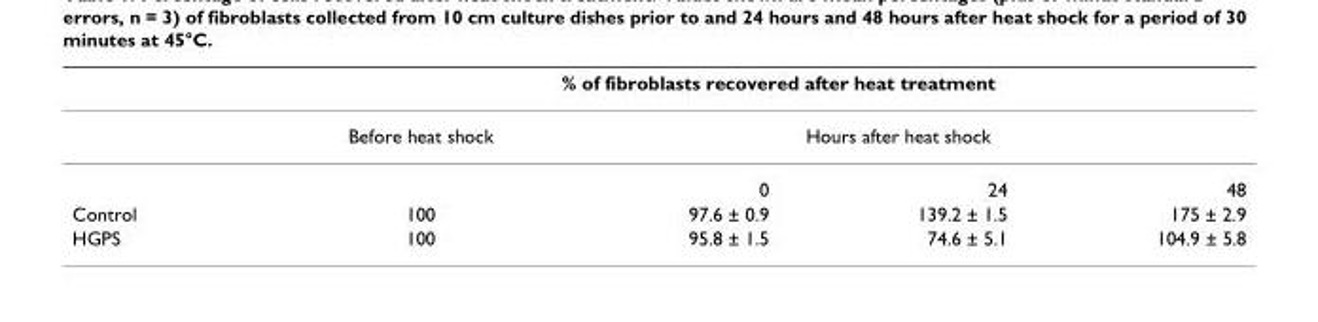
<table><thead><tr><td rowspan="3"></td><td colspan="4">% of fibroblasts recovered after heat treatment</td></tr><tr><td rowspan="2">Before heat shock</td><td colspan="3">Hours after heat shock</td></tr><tr><td>0</td><td>24</td><td>48</td></tr></thead><tbody><tr><td>Control</td><td>100</td><td>97.6 ± 0.9</td><td>139.2 ± 1.5</td><td>175 ± 2.9</td></tr><tr><td>HGPS</td><td>100</td><td>95.8 ± 1.5</td><td>74.6 ± 5.1</td><td>104.9 ± 5.8</td></tr></tbody></table>